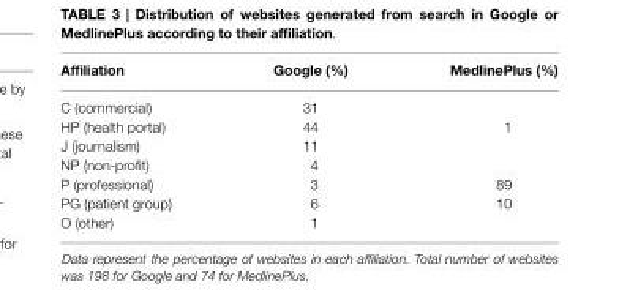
<table><thead><tr><td>Affiliation</td><td>Google (%)</td><td>MedlinePlus (%)</td></tr></thead><tbody><tr><td>C (commercial)</td><td>31</td><td></td></tr><tr><td>HP (health portal)</td><td>44</td><td>1</td></tr><tr><td>J (journalism)</td><td>11</td><td></td></tr><tr><td>NP (non-profit)</td><td>4</td><td></td></tr><tr><td>P (professional)</td><td>3</td><td>89</td></tr><tr><td>PG (patient group)</td><td>6</td><td>10</td></tr><tr><td>O (other)</td><td>1</td><td></td></tr></tbody></table>